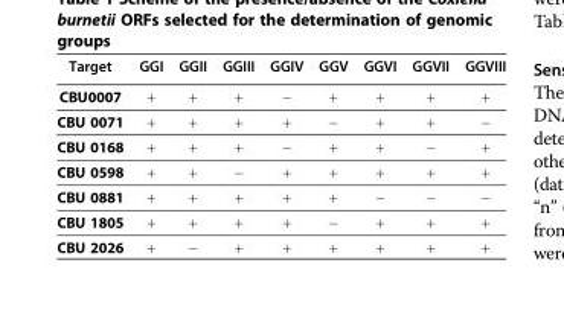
<table><thead><tr><td>Target</td><td>GGI</td><td>GGII</td><td>GGIII</td><td>GGIV</td><td>GGV</td><td>GGVI</td><td>GGVII</td><td>GGVIII</td></tr></thead><tbody><tr><td>CBU0007</td><td>+</td><td>+</td><td>+</td><td>−</td><td>+</td><td>+</td><td>+</td><td>+</td></tr><tr><td>CBU 0071</td><td>+</td><td>+</td><td>+</td><td>+</td><td>−</td><td>+</td><td>+</td><td>−</td></tr><tr><td>CBU 0168</td><td>+</td><td>+</td><td>+</td><td>−</td><td>+</td><td>+</td><td>−</td><td>+</td></tr><tr><td>CBU 0598</td><td>+</td><td>+</td><td>−</td><td>+</td><td>+</td><td>+</td><td>+</td><td>+</td></tr><tr><td>CBU 0881</td><td>+</td><td>+</td><td>+</td><td>+</td><td>+</td><td>−</td><td>−</td><td>−</td></tr><tr><td>CBU 1805</td><td>+</td><td>+</td><td>+</td><td>+</td><td>−</td><td>+</td><td>+</td><td>+</td></tr><tr><td>CBU 2026</td><td>+</td><td>−</td><td>+</td><td>+</td><td>+</td><td>+</td><td>+</td><td>+</td></tr></tbody></table>